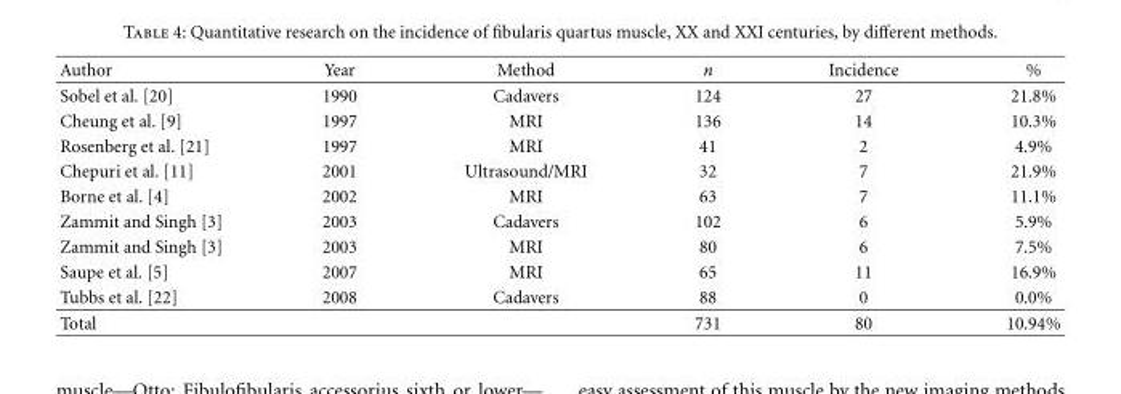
<table><thead><tr><td>Author</td><td>Year</td><td>Method</td><td>n</td><td>Incidence</td><td>%</td></tr></thead><tbody><tr><td>Sobel et al. [20]</td><td>1990</td><td>Cadavers</td><td>124</td><td>27</td><td>21.8%</td></tr><tr><td>Cheung et al. [9]</td><td>1997</td><td>MRI</td><td>136</td><td>14</td><td>10.3%</td></tr><tr><td>Rosenberg et al. [21]</td><td>1997</td><td>MRI</td><td>41</td><td>2</td><td>4.9%</td></tr><tr><td>Chepuri et al. [11]</td><td>2001</td><td>Ultrasound/MRI</td><td>32</td><td>7</td><td>21.9%</td></tr><tr><td>Borne et al. [4]</td><td>2002</td><td>MRI</td><td>63</td><td>7</td><td>11.1%</td></tr><tr><td>Zammit and Singh [3]</td><td>2003</td><td>Cadavers</td><td>102</td><td>6</td><td>5.9%</td></tr><tr><td>Zammit and Singh [3]</td><td>2003</td><td>MRI</td><td>80</td><td>6</td><td>7.5%</td></tr><tr><td>Saupe et al. [5]</td><td>2007</td><td>MRI</td><td>65</td><td>11</td><td>16.9%</td></tr><tr><td>Tubbs et al. [22]</td><td>2008</td><td>Cadavers</td><td>88</td><td>0</td><td>0.0%</td></tr><tr><td>Total</td><td></td><td></td><td>731</td><td>80</td><td>10.94%</td></tr></tbody></table>